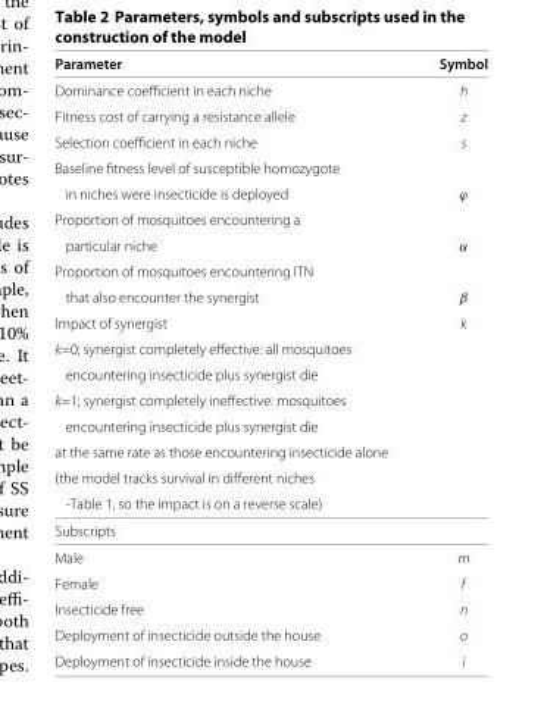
<table><thead><tr><td>Parameter</td><td>Symbol</td></tr></thead><tbody><tr><td>Dominance coefficient in each niche</td><td>h</td></tr><tr><td>Fitness cost of carrying a resistance allele</td><td>z</td></tr><tr><td>Selection coefficient in each niche</td><td>s</td></tr><tr><td colspan="2">Baseline fitness level of susceptible homozygote</td></tr><tr><td>in niches were insecticide is deployed</td><td>ϕ</td></tr><tr><td colspan="2">Proportion of mosquitoes encountering a</td></tr><tr><td>particular niche</td><td>α</td></tr><tr><td colspan="2">Proportion of mosquitoes encountering ITN</td></tr><tr><td>that also encounter the synergist</td><td>β</td></tr><tr><td>Impact of synergist</td><td>k</td></tr><tr><td colspan="2">k=0; synergist completely effective: all mosquitoes</td></tr><tr><td colspan="2">encountering insecticide plus synergist die</td></tr><tr><td colspan="2">k=1; synergist completely ineffective: mosquitoes</td></tr><tr><td colspan="2">encountering insecticide plus synergist die</td></tr><tr><td colspan="2">at the same rate as those encountering insecticide alone</td></tr><tr><td colspan="2">(the model tracks survival in different niches</td></tr><tr><td colspan="2">-Table 1, so the impact is on a reverse scale)</td></tr><tr><td colspan="2">Subscripts</td></tr><tr><td>Male</td><td>m</td></tr><tr><td>Female</td><td>f</td></tr><tr><td>Insecticide free</td><td>n</td></tr><tr><td>Deployment of insecticide outside the house</td><td>o</td></tr><tr><td>Deployment of insecticide inside the house</td><td>i</td></tr></tbody></table>